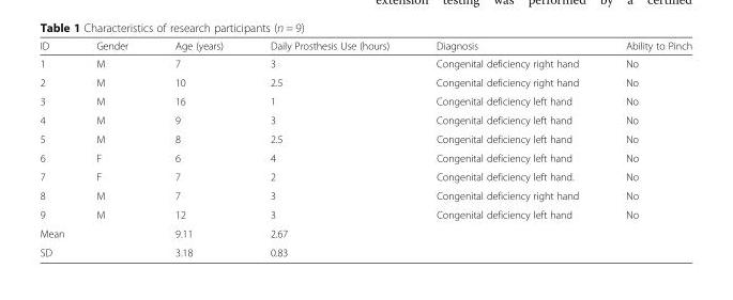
<table><thead><tr><td>ID</td><td>Gender</td><td>Age (years)</td><td>Daily Prosthesis Use (hours)</td><td>Diagnosis</td><td>Ability to Pinch</td></tr></thead><tbody><tr><td>1</td><td>M</td><td>7</td><td>3</td><td>Congenital deficiency right hand</td><td>No</td></tr><tr><td>2</td><td>M</td><td>10</td><td>2.5</td><td>Congenital deficiency right hand</td><td>No</td></tr><tr><td>3</td><td>M</td><td>16</td><td>1</td><td>Congenital deficiency left hand</td><td>No</td></tr><tr><td>4</td><td>M</td><td>9</td><td>3</td><td>Congenital deficiency left hand</td><td>No</td></tr><tr><td>5</td><td>M</td><td>8</td><td>2.5</td><td>Congenital deficiency left hand</td><td>No</td></tr><tr><td>6</td><td>F</td><td>6</td><td>4</td><td>Congenital deficiency left hand</td><td>No</td></tr><tr><td>7</td><td>F</td><td>7</td><td>2</td><td>Congenital deficiency left hand.</td><td>No</td></tr><tr><td>8</td><td>M</td><td>7</td><td>3</td><td>Congenital deficiency right hand</td><td>No</td></tr><tr><td>9</td><td>M</td><td>12</td><td>3</td><td>Congenital deficiency left hand</td><td>No</td></tr><tr><td colspan="2">Mean</td><td>9.11</td><td>2.67</td><td></td><td></td></tr><tr><td colspan="2">SD</td><td>3.18</td><td>0.83</td><td></td><td></td></tr></tbody></table>